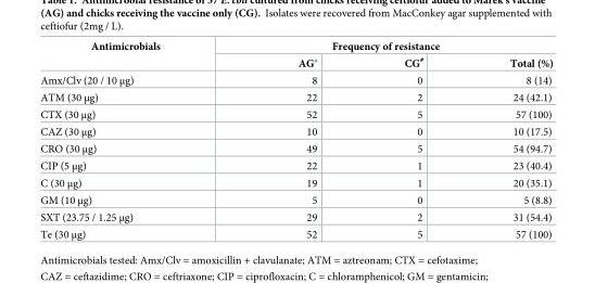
<table><thead><tr><td rowspan="2">Antimicrobials</td><td colspan="3">Frequency of resistance</td></tr><tr><td>AG*</td><td>CG<sup>#</sup></td><td>Total (%)</td></tr></thead><tbody><tr><td>Amx/Clv (20 / 10 μg)</td><td>8</td><td>0</td><td>8 (14)</td></tr><tr><td>ATM (30 μg)</td><td>22</td><td>2</td><td>24 (42.1)</td></tr><tr><td>CTX (30 μg)</td><td>52</td><td>5</td><td>57 (100)</td></tr><tr><td>CAZ (30 μg)</td><td>10</td><td>0</td><td>10 (17.5)</td></tr><tr><td>CRO (30 μg)</td><td>49</td><td>5</td><td>54 (94.7)</td></tr><tr><td>CIP (5 μg)</td><td>22</td><td>1</td><td>23 (40.4)</td></tr><tr><td>C (30 μg)</td><td>19</td><td>1</td><td>20 (35.1)</td></tr><tr><td>GM (10 μg)</td><td>5</td><td>0</td><td>5 (8.8)</td></tr><tr><td>SXT (23.75 / 1.25 μg)</td><td>29</td><td>2</td><td>31 (54.4)</td></tr><tr><td>Te (30 μg)</td><td>52</td><td>5</td><td>57 (100)</td></tr></tbody></table>